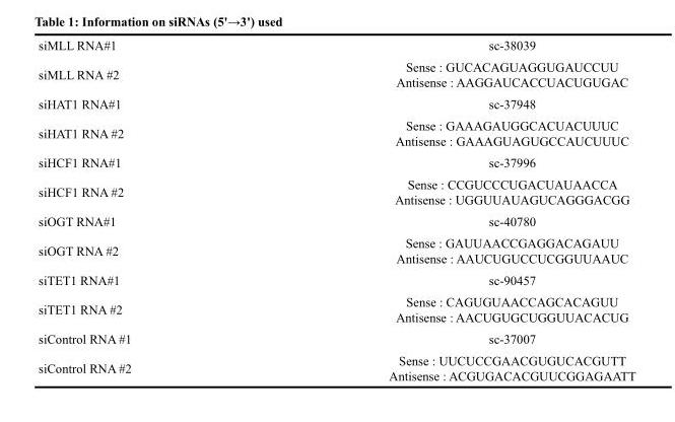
<table><tbody><tr><td>siMLL RNA#1</td><td>sc-38039</td></tr><tr><td>siMLL RNA #2</td><td>Sense : GUCACAGUAGGUGAUCCUU Antisense : AAGGAUCACCUACUGUGAC</td></tr><tr><td>siHAT1 RNA#1</td><td>sc-37948</td></tr><tr><td>siHAT1 RNA #2</td><td>Sense : GAAAGAUGGCACUACUUUC Antisense : GAAAGUAGUGCCAUCUUUC</td></tr><tr><td>siHCF1 RNA#1</td><td>sc-37996</td></tr><tr><td>siHCF1 RNA #2</td><td>Sense : CCGUCCCUGACUAUAACCA Antisense : UGGUUAUAGUCAGGGACGG</td></tr><tr><td>siOGT RNA#1</td><td>sc-40780</td></tr><tr><td>siOGT RNA #2</td><td>Sense : GAUUAACCGAGGACAGAUU Antisense : AAUCUGUCCUCGGUUAAUC</td></tr><tr><td>siTET1 RNA#1</td><td>sc-90457</td></tr><tr><td>siTET1 RNA #2</td><td>Sense : CAGUGUAACCAGCACAGUU Antisense : AACUGUGCUGGUUACACUG</td></tr><tr><td>siControl RNA #1</td><td>sc-37007</td></tr><tr><td>siControl RNA #2</td><td>Sense : UUCUCCGAACGUGUCACGUTT Antisense : ACGUGACACGUUCGGAGAATT</td></tr></tbody></table>